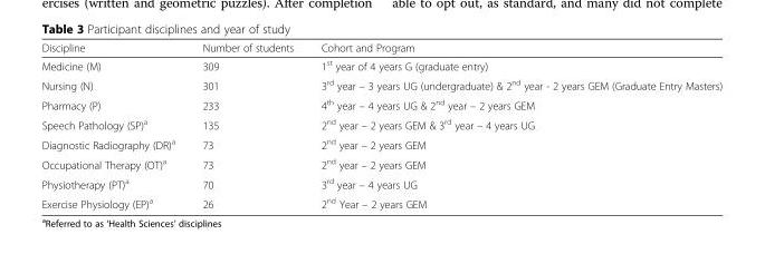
<table><thead><tr><td>Discipline</td><td>Number of students</td><td>Cohort and Program</td></tr></thead><tbody><tr><td>Medicine (M)</td><td>309</td><td>1<sup>st</sup> year of 4 years G (graduate entry)</td></tr><tr><td>Nursing (N)</td><td>301</td><td>3<sup>rd</sup> year – 3 years UG (undergraduate) &amp; 2<sup>nd</sup> year - 2 years GEM (Graduate Entry Masters)</td></tr><tr><td>Pharmacy (P)</td><td>233</td><td>4<sup>th</sup> year – 4 years UG &amp; 2<sup>nd</sup> year – 2 years GEM</td></tr><tr><td>Speech Pathology (SP)<sup>a</sup></td><td>135</td><td>2<sup>nd</sup> year – 2 years GEM &amp; 3<sup>rd</sup> year – 4 years UG</td></tr><tr><td>Diagnostic Radiography (DR)<sup>a</sup></td><td>73</td><td>2<sup>nd</sup> year – 2 years GEM</td></tr><tr><td>Occupational Therapy (OT)<sup>a</sup></td><td>73</td><td>2<sup>nd</sup> year – 2 years GEM</td></tr><tr><td>Physiotherapy (PT)<sup>a</sup></td><td>70</td><td>3<sup>rd</sup> year – 4 years UG</td></tr><tr><td>Exercise Physiology (EP)<sup>a</sup></td><td>26</td><td>2<sup>nd</sup> Year – 2 years GEM</td></tr></tbody></table>